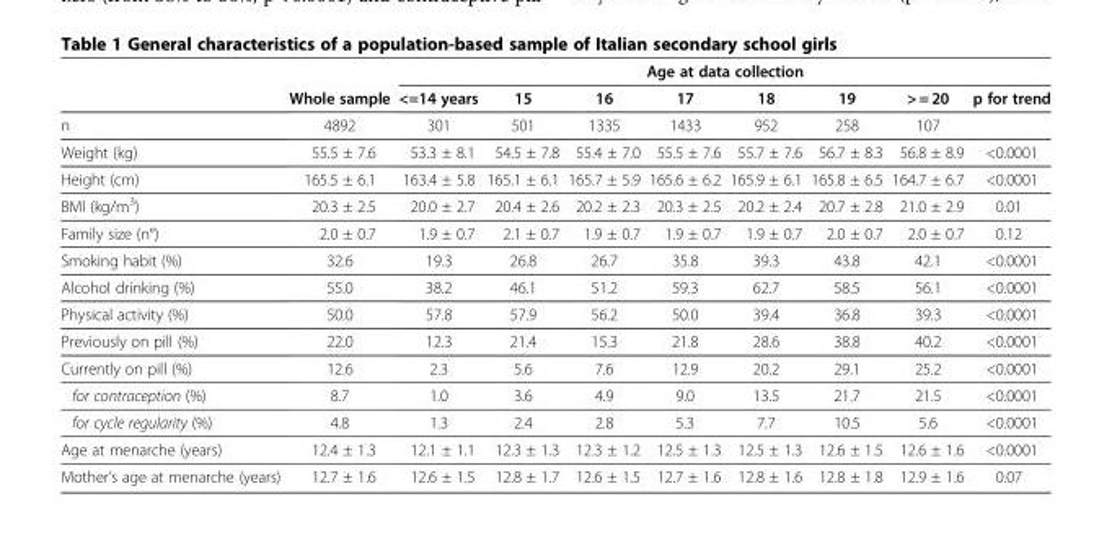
<table><thead><tr><td rowspan="2"></td><td rowspan="2">Whole sample</td><td colspan="8">Age at data collection</td></tr><tr><td>&lt;=14 years</td><td>15</td><td>16</td><td>17</td><td>18</td><td>19</td><td>&gt; = 20</td><td>p for trend</td></tr></thead><tbody><tr><td>n</td><td>4892</td><td>301</td><td>501</td><td>1335</td><td>1433</td><td>952</td><td>258</td><td>107</td><td></td></tr><tr><td>Weight (kg)</td><td>55.5 ± 7.6</td><td>53.3 ± 8.1</td><td>54.5 ± 7.8</td><td>55.4 ± 7.0</td><td>55.5 ± 7.6</td><td>55.7 ± 7.6</td><td>56.7 ± 8.3</td><td>56.8 ± 8.9</td><td>&lt;0.0001</td></tr><tr><td>Height (cm)</td><td>165.5 ± 6.1</td><td>163.4 ± 5.8</td><td>165.1 ± 6.1</td><td>165.7 ± 5.9</td><td>165.6 ± 6.2</td><td>165.9 ± 6.1</td><td>165.8 ± 6.5</td><td>164.7 ± 6.7</td><td>&lt;0.0001</td></tr><tr><td>BMI (kg/m<sup>3</sup>)</td><td>20.3 ± 2.5</td><td>20.0 ± 2.7</td><td>20.4 ± 2.6</td><td>20.2 ± 2.3</td><td>20.3 ± 2.5</td><td>20.2 ± 2.4</td><td>20.7 ± 2.8</td><td>21.0 ± 2.9</td><td>0.01</td></tr><tr><td>Family size (n°)</td><td>2.0 ± 0.7</td><td>1.9 ± 0.7</td><td>2.1 ± 0.7</td><td>1.9 ± 0.7</td><td>1.9 ± 0.7</td><td>1.9 ± 0.7</td><td>2.0 ± 0.7</td><td>2.0 ± 0.7</td><td>0.12</td></tr><tr><td>Smoking habit (%)</td><td>32.6</td><td>19.3</td><td>26.8</td><td>26.7</td><td>35.8</td><td>39.3</td><td>43.8</td><td>42.1</td><td>&lt;0.0001</td></tr><tr><td>Alcohol drinking (%)</td><td>55.0</td><td>38.2</td><td>46.1</td><td>51.2</td><td>59.3</td><td>62.7</td><td>58.5</td><td>56.1</td><td>&lt;0.0001</td></tr><tr><td>Physical activity (%)</td><td>50.0</td><td>57.8</td><td>57.9</td><td>56.2</td><td>50.0</td><td>39.4</td><td>36.8</td><td>39.3</td><td>&lt;0.0001</td></tr><tr><td>Previously on pill (%)</td><td>22.0</td><td>12.3</td><td>21.4</td><td>15.3</td><td>21.8</td><td>28.6</td><td>38.8</td><td>40.2</td><td>&lt;0.0001</td></tr><tr><td>Currently on pill (%)</td><td>12.6</td><td>2.3</td><td>5.6</td><td>7.6</td><td>12.9</td><td>20.2</td><td>29.1</td><td>25.2</td><td>&lt;0.0001</td></tr><tr><td>for contraception (%)</td><td>8.7</td><td>1.0</td><td>3.6</td><td>4.9</td><td>9.0</td><td>13.5</td><td>21.7</td><td>21.5</td><td>&lt;0.0001</td></tr><tr><td>for cycle regularity (%)</td><td>4.8</td><td>1.3</td><td>2.4</td><td>2.8</td><td>5.3</td><td>7.7</td><td>10.5</td><td>5.6</td><td>&lt;0.0001</td></tr><tr><td>Age at menarche (years)</td><td>12.4 ± 1.3</td><td>12.1 ± 1.1</td><td>12.3 ± 1.3</td><td>12.3 ± 1.2</td><td>12.5 ± 1.3</td><td>12.5 ± 1.3</td><td>12.6 ± 1.5</td><td>12.6 ± 1.6</td><td>&lt;0.0001</td></tr><tr><td>Mother’s age at menarche (years)</td><td>12.7 ± 1.6</td><td>12.6 ± 1.5</td><td>12.8 ± 1.7</td><td>12.6 ± 1.5</td><td>12.7 ± 1.6</td><td>12.8 ± 1.6</td><td>12.8 ± 1.8</td><td>12.9 ± 1.6</td><td>0.07</td></tr></tbody></table>